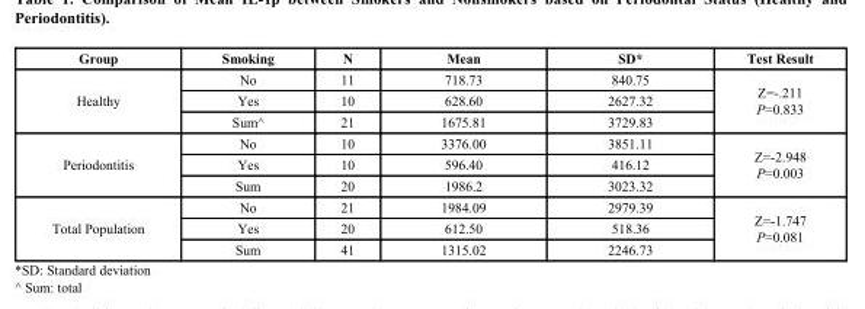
<table><thead><tr><td>Group</td><td>Smoking</td><td>N</td><td>Mean</td><td>SD*</td><td>Test Result</td></tr></thead><tbody><tr><td rowspan="3">Healthy</td><td>No</td><td>11</td><td>718.73</td><td>840.75</td><td rowspan="3">Z=-.211 P=0.833</td></tr><tr><td>Yes</td><td>10</td><td>628.60</td><td>2627.32</td></tr><tr><td>Sum^</td><td>21</td><td>1675.81</td><td>3729.83</td></tr><tr><td rowspan="3">Periodontitis</td><td>No</td><td>10</td><td>3376.00</td><td>3851.11</td><td rowspan="3">Z=-2.948 P=0.003</td></tr><tr><td>Yes</td><td>10</td><td>596.40</td><td>416.12</td></tr><tr><td>Sum</td><td>20</td><td>1986.2</td><td>3023.32</td></tr><tr><td rowspan="3">Total Population</td><td>No</td><td>21</td><td>1984.09</td><td>2979.39</td><td rowspan="3">Z=-1.747 P=0.081</td></tr><tr><td>Yes</td><td>20</td><td>612.50</td><td>518.36</td></tr><tr><td>Sum</td><td>41</td><td>1315.02</td><td>2246.73</td></tr></tbody></table>